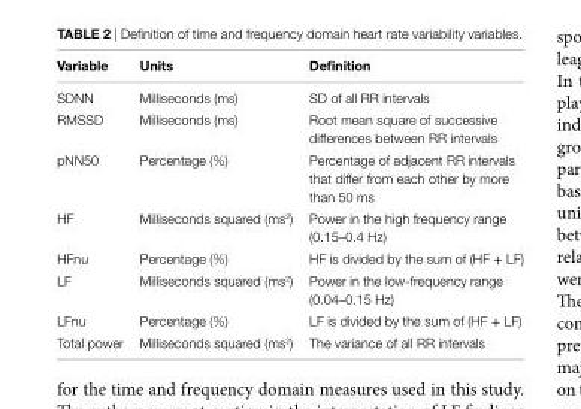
<table><thead><tr><td>Variable</td><td>Units</td><td>Definition</td></tr></thead><tbody><tr><td>SDNN</td><td>Milliseconds (ms)</td><td>SD of all RR intervals</td></tr><tr><td>RMSSD</td><td>Milliseconds (ms)</td><td>Root mean square of successive differences between RR intervals</td></tr><tr><td>pNN50</td><td>Percentage (%)</td><td>Percentage of adjacent RR intervals that differ from each other by more than 50 ms</td></tr><tr><td>HF</td><td>Milliseconds squared (ms<sup>2</sup>)</td><td>Power in the high frequency range (0.15–0.4 Hz)</td></tr><tr><td>HFnu</td><td>Percentage (%)</td><td>HF is divided by the sum of (HF + LF)</td></tr><tr><td>LF</td><td>Milliseconds squared (ms<sup>2</sup>)</td><td>Power in the low-frequency range (0.04–0.15 Hz)</td></tr><tr><td>LFnu</td><td>Percentage (%)</td><td>LF is divided by the sum of (HF + LF)</td></tr><tr><td>Total power</td><td>Milliseconds squared (ms<sup>2</sup>)</td><td>The variance of all RR intervals</td></tr></tbody></table>